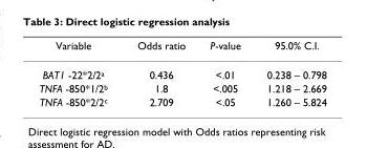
<table><thead><tr><td>Variable</td><td>Odds ratio</td><td>P-value</td><td>95.0% C.I.</td></tr></thead><tbody><tr><td>BAT1 -22*2/2<sup>a</sup></td><td>0.436</td><td>&lt;.01</td><td>0.238 – 0.798</td></tr><tr><td>TNFA -850*1/2<sup>b</sup></td><td>1.8</td><td>&lt;.005</td><td>1.218 – 2.669</td></tr><tr><td>TNFA -850*2/2<sup>c</sup></td><td>2.709</td><td>&lt;.05</td><td>1.260 – 5.824</td></tr></tbody></table>